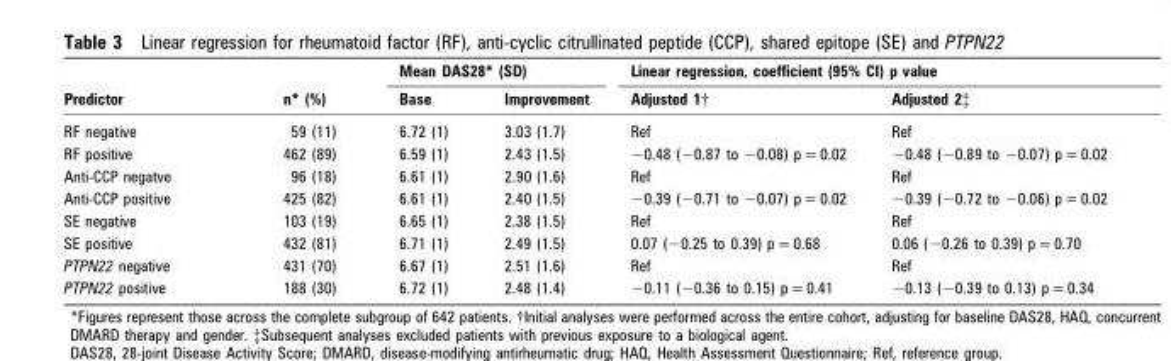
<table><thead><tr><td rowspan="2">Predictor</td><td rowspan="2">n* (%)</td><td colspan="2">Mean DAS28* (SD)</td><td colspan="2">Linear regression, coefficient (95% CI) p value</td></tr><tr><td>Base</td><td>Improvement</td><td>Adjusted 1†</td><td>Adjusted 2‡</td></tr></thead><tbody><tr><td>RF negative</td><td>59 (11)</td><td>6.72 (1)</td><td>3.03 (1.7)</td><td>Ref</td><td>Ref</td></tr><tr><td>RF positive</td><td>462 (89)</td><td>6.59 (1)</td><td>2.43 (1.5)</td><td>−0.48 (−0.87 to −0.08) p = 0.02</td><td>−0.48 (−0.89 to −0.07) p = 0.02</td></tr><tr><td>Anti-CCP negatve</td><td>96 (18)</td><td>6.61 (1)</td><td>2.90 (1.6)</td><td>Ref</td><td>Ref</td></tr><tr><td>Anti-CCP positive</td><td>425 (82)</td><td>6.61 (1)</td><td>2.40 (1.5)</td><td>−0.39 (−0.71 to −0.07) p = 0.02</td><td>−0.39 (−0.72 to −0.06) p = 0.02</td></tr><tr><td>SE negative</td><td>103 (19)</td><td>6.65 (1)</td><td>2.38 (1.5)</td><td>Ref</td><td>Ref</td></tr><tr><td>SE positive</td><td>432 (81)</td><td>6.71 (1)</td><td>2.49 (1.5)</td><td>0.07 (−0.25 to 0.39) p = 0.68</td><td>0.06 (−0.26 to 0.39) p = 0.70</td></tr><tr><td>PTPN22 negative</td><td>431 (70)</td><td>6.67 (1)</td><td>2.51 (1.6)</td><td>Ref</td><td>Ref</td></tr><tr><td>PTPN22 positive</td><td>188 (30)</td><td>6.72 (1)</td><td>2.48 (1.4)</td><td>−0.11 (−0.36 to 0.15) p = 0.41</td><td>−0.13 (−0.39 to 0.13) p = 0.34</td></tr></tbody></table>